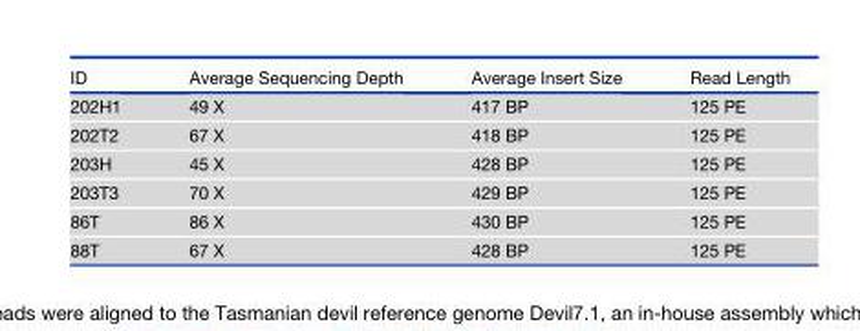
<table><thead><tr><td>ID</td><td>Average Sequencing Depth</td><td>Average Insert Size</td><td>Read Length</td></tr></thead><tbody><tr><td>202H1</td><td>49 X</td><td>417 BP</td><td>125 PE</td></tr><tr><td>202T2</td><td>67 X</td><td>418 BP</td><td>125 PE</td></tr><tr><td>203H</td><td>45 X</td><td>428 BP</td><td>125 PE</td></tr><tr><td>203T3</td><td>70 X</td><td>429 BP</td><td>125 PE</td></tr><tr><td>86T</td><td>86 X</td><td>430 BP</td><td>125 PE</td></tr><tr><td>88T</td><td>67 X</td><td>428 BP</td><td>125 PE</td></tr></tbody></table>